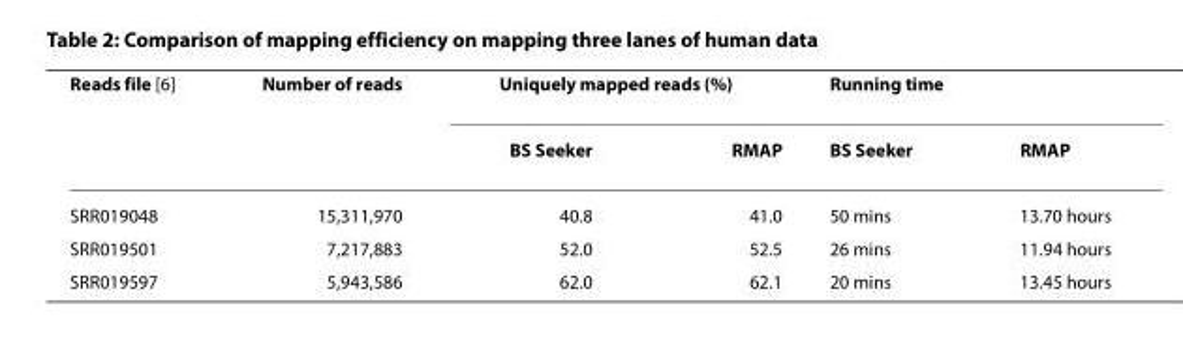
<table><thead><tr><td rowspan="2">Reads file [6]</td><td rowspan="2">Number of reads</td><td colspan="2">Uniquely mapped reads (%)</td><td colspan="2">Running time</td></tr><tr><td>BS Seeker</td><td>RMAP</td><td>BS Seeker</td><td>RMAP</td></tr></thead><tbody><tr><td>SRR019048</td><td>15,311,970</td><td>40.8</td><td>41.0</td><td>50 mins</td><td>13.70 hours</td></tr><tr><td>SRR019501</td><td>7,217,883</td><td>52.0</td><td>52.5</td><td>26 mins</td><td>11.94 hours</td></tr><tr><td>SRR019597</td><td>5,943,586</td><td>62.0</td><td>62.1</td><td>20 mins</td><td>13.45 hours</td></tr></tbody></table>